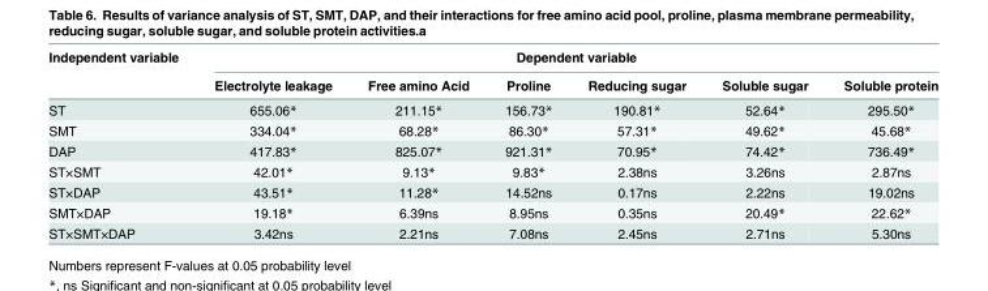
<table><thead><tr><td rowspan="2">Independent variable</td><td colspan="6">Dependent variable</td></tr><tr><td>Electrolyte leakage</td><td>Free amino Acid</td><td>Proline</td><td>Reducing sugar</td><td>Soluble sugar</td><td>Soluble protein</td></tr></thead><tbody><tr><td>ST</td><td>655.06*</td><td>211.15*</td><td>156.73*</td><td>190.81*</td><td>52.64*</td><td>295.50*</td></tr><tr><td>SMT</td><td>334.04*</td><td>68.28*</td><td>86.30*</td><td>57.31*</td><td>49.62*</td><td>45.68*</td></tr><tr><td>DAP</td><td>417.83*</td><td>825.07*</td><td>921.31*</td><td>70.95*</td><td>74.42*</td><td>736.49*</td></tr><tr><td>ST×SMT</td><td>42.01*</td><td>9.13*</td><td>9.83*</td><td>2.38ns</td><td>3.26ns</td><td>2.87ns</td></tr><tr><td>ST×DAP</td><td>43.51*</td><td>11.28*</td><td>14.52ns</td><td>0.17ns</td><td>2.22ns</td><td>19.02ns</td></tr><tr><td>SMT×DAP</td><td>19.18*</td><td>6.39ns</td><td>8.95ns</td><td>0.35ns</td><td>20.49*</td><td>22.62*</td></tr><tr><td>ST×SMT×DAP</td><td>3.42ns</td><td>2.21ns</td><td>7.08ns</td><td>2.45ns</td><td>2.71ns</td><td>5.30ns</td></tr></tbody></table>